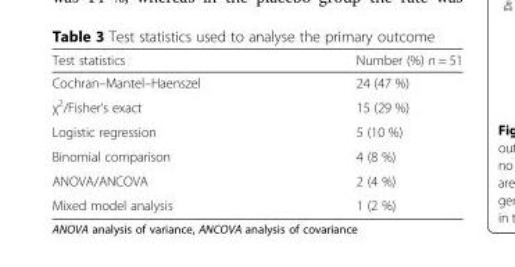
<table><thead><tr><td>Test statistics</td><td>Number (%) n = 51</td></tr></thead><tbody><tr><td>Cochran–Mantel–Haenszel</td><td>24 (47 %)</td></tr><tr><td>χ<sup>2</sup>/Fisher’s exact</td><td>15 (29 %)</td></tr><tr><td>Logistic regression</td><td>5 (10 %)</td></tr><tr><td>Binomial comparison</td><td>4 (8 %)</td></tr><tr><td>ANOVA/ANCOVA</td><td>2 (4 %)</td></tr><tr><td>Mixed model analysis</td><td>1 (2 %)</td></tr></tbody></table>